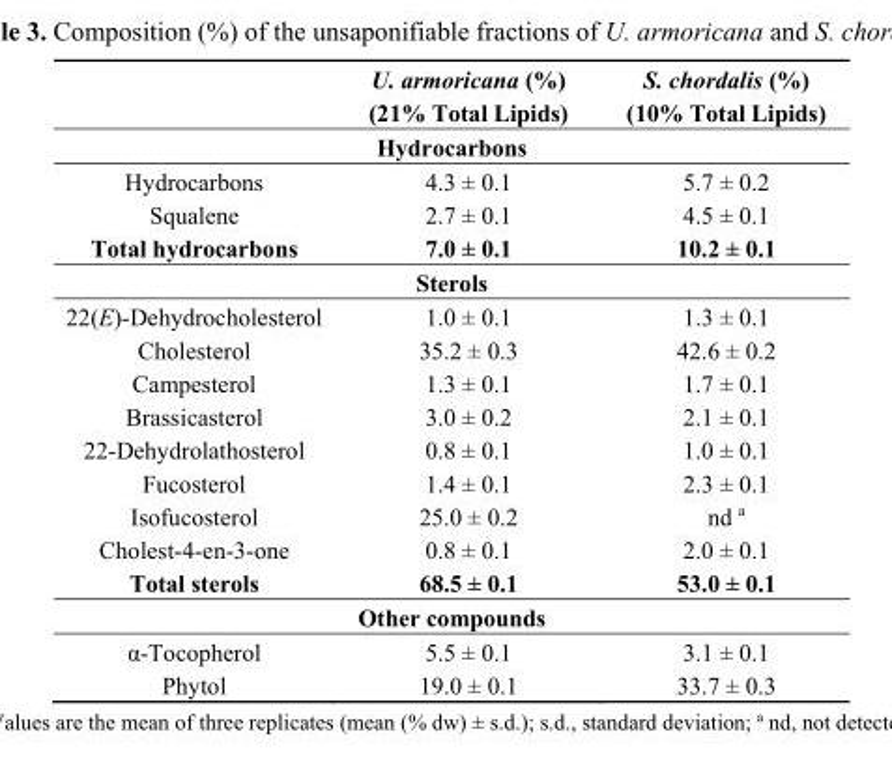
<table><thead><tr><td></td><td>U. armoricana (%) (21% Total Lipids)</td><td>S. chordalis (%) (10% Total Lipids)</td></tr></thead><tbody><tr><td colspan="3">Hydrocarbons</td></tr><tr><td>Hydrocarbons</td><td>4.3 ± 0.1</td><td>5.7 ± 0.2</td></tr><tr><td>Squalene</td><td>2.7 ± 0.1</td><td>4.5 ± 0.1</td></tr><tr><td>Total hydrocarbons</td><td>7.0 ± 0.1</td><td>10.2 ± 0.1</td></tr><tr><td colspan="3">Sterols</td></tr><tr><td>22(E)-Dehydrocholesterol</td><td>1.0 ± 0.1</td><td>1.3 ± 0.1</td></tr><tr><td>Cholesterol</td><td>35.2 ± 0.3</td><td>42.6 ± 0.2</td></tr><tr><td>Campesterol</td><td>1.3 ± 0.1</td><td>1.7 ± 0.1</td></tr><tr><td>Brassicasterol</td><td>3.0 ± 0.2</td><td>2.1 ± 0.1</td></tr><tr><td>22-Dehydrolathosterol</td><td>0.8 ± 0.1</td><td>1.0 ± 0.1</td></tr><tr><td>Fucosterol</td><td>1.4 ± 0.1</td><td>2.3 ± 0.1</td></tr><tr><td>Isofucosterol</td><td>25.0 ± 0.2</td><td>nd <sup>a</sup></td></tr><tr><td>Cholest-4-en-3-one</td><td>0.8 ± 0.1</td><td>2.0 ± 0.1</td></tr><tr><td>Total sterols</td><td>68.5 ± 0.1</td><td>53.0 ± 0.1</td></tr><tr><td colspan="3">Other compounds</td></tr><tr><td>α-Tocopherol</td><td>5.5 ± 0.1</td><td>3.1 ± 0.1</td></tr><tr><td>Phytol</td><td>19.0 ± 0.1</td><td>33.7 ± 0.3</td></tr></tbody></table>